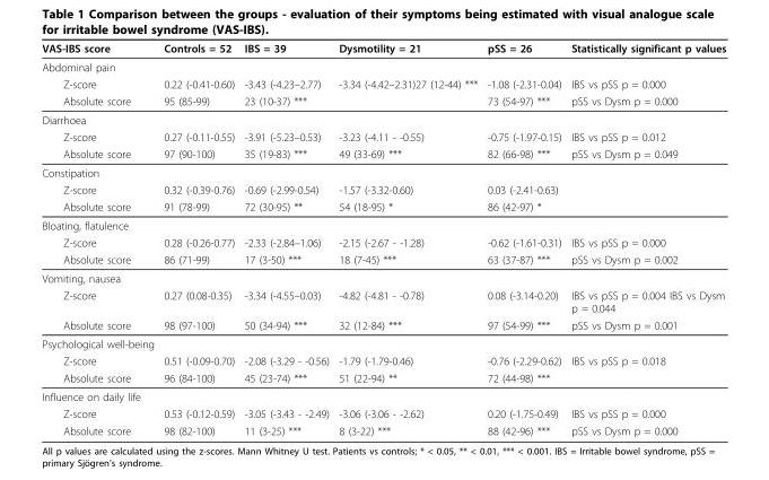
<table><thead><tr><td>VAS-IBS score</td><td>Controls = 52</td><td>IBS = 39</td><td>Dysmotility = 21</td><td>pSS = 26</td><td>Statistically significant p values</td></tr></thead><tbody><tr><td colspan="6">Abdominal pain</td></tr><tr><td>Z-score</td><td>0.22 (-0.41-0.60)</td><td>-3.43 (-4.23–2.77)</td><td>-3.34 (-4.42–2.31)27 (12-44) ***</td><td>-1.08 (-2.31-0.04)</td><td>IBS vs pSS p = 0.000</td></tr><tr><td>Absolute score</td><td>95 (85-99)</td><td>23 (10-37) ***</td><td></td><td>73 (54-97) ***</td><td>pSS vs Dysm p = 0.000</td></tr><tr><td colspan="6">Diarrhoea</td></tr><tr><td>Z-score</td><td>0.27 (-0.11-0.55)</td><td>-3.91 (-5.23–0.53)</td><td>-3.23 (-4.11 - -0.55)</td><td>-0.75 (-1.97-0.15)</td><td>IBS vs pSS p = 0.012</td></tr><tr><td>Absolute score</td><td>97 (90-100)</td><td>35 (19-83) ***</td><td>49 (33-69) ***</td><td>82 (66-98) ***</td><td>pSS vs Dysm p = 0.049</td></tr><tr><td colspan="6">Constipation</td></tr><tr><td>Z-score</td><td>0.32 (-0.39-0.76)</td><td>-0.69 (-2.99-0.54)</td><td>-1.57 (-3.32-0.60)</td><td>0.03 (-2.41-0.63)</td><td></td></tr><tr><td>Absolute score</td><td>91 (78-99)</td><td>72 (30-95) **</td><td>54 (18-95) *</td><td>86 (42-97) *</td><td></td></tr><tr><td colspan="6">Bloating, flatulence</td></tr><tr><td>Z-score</td><td>0.28 (-0.26-0.77)</td><td>-2.33 (-2.84–1.06)</td><td>-2.15 (-2.67 - -1.28)</td><td>-0.62 (-1.61-0.31)</td><td>IBS vs pSS p = 0.000</td></tr><tr><td>Absolute score</td><td>86 (71-99)</td><td>17 (3-50) ***</td><td>18 (7-45) ***</td><td>63 (37-87) ***</td><td>pSS vs Dysm p = 0.002</td></tr><tr><td colspan="6">Vomiting, nausea</td></tr><tr><td>Z-score</td><td>0.27 (0.08-0.35)</td><td>-3.34 (-4.55–0.03)</td><td>-4.82 (-4.81 - -0.78)</td><td>0.08 (-3.14-0.20)</td><td>IBS vs pSS p = 0.004 IBS vs Dysm p = 0.044</td></tr><tr><td>Absolute score</td><td>98 (97-100)</td><td>50 (34-94) ***</td><td>32 (12-84) ***</td><td>97 (54-99) ***</td><td>pSS vs Dysm p = 0.001</td></tr><tr><td colspan="6">Psychological well-being</td></tr><tr><td>Z-score</td><td>0.51 (-0.09-0.70)</td><td>-2.08 (-3.29 - -0.56)</td><td>-1.79 (-1.79-0.46)</td><td>-0.76 (-2.29-0.62)</td><td>IBS vs pSS p = 0.018</td></tr><tr><td>Absolute score</td><td>96 (84-100)</td><td>45 (23-74) ***</td><td>51 (22-94) **</td><td>72 (44-98) ***</td><td></td></tr><tr><td colspan="6">Influence on daily life</td></tr><tr><td>Z-score</td><td>0.53 (-0.12-0.59)</td><td>-3.05 (-3.43 - -2.49)</td><td>-3.06 (-3.06 - -2.62)</td><td>0.20 (-1.75-0.49)</td><td>IBS vs pSS p = 0.000</td></tr><tr><td>Absolute score</td><td>98 (82-100)</td><td>11 (3-25) ***</td><td>8 (3-22) ***</td><td>88 (42-96) ***</td><td>pSS vs Dysm p = 0.000</td></tr></tbody></table>